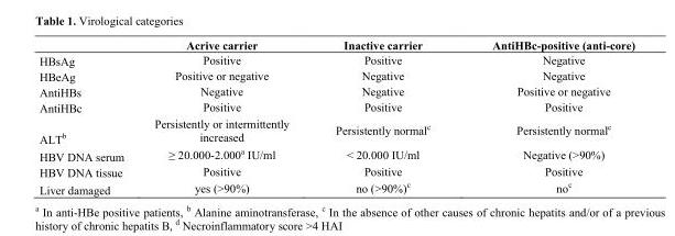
<table><thead><tr><td></td><td>Acrive carrier</td><td>Inactive carrier</td><td>AntiHBc-positive (anti-core)</td></tr></thead><tbody><tr><td>HBsAg</td><td>Positive</td><td>Positive</td><td>Negative</td></tr><tr><td>HBeAg</td><td>Positive or negative</td><td>Negative</td><td>Negative</td></tr><tr><td>AntiHBs</td><td>Negative</td><td>Negative</td><td>Positive or negative</td></tr><tr><td>AntiHBc</td><td>Positive</td><td>Positive</td><td>Positive</td></tr><tr><td>ALT<sup>b</sup></td><td>Persistently or intermittently increased</td><td>Persistently normal<sup>c</sup></td><td>Persistently normal<sup>c</sup></td></tr><tr><td>HBV DNA serum</td><td>≥ 20.000-2.000<sup>a</sup> IU/ml</td><td>&lt; 20.000 IU/ml</td><td>Negative (&gt;90%)</td></tr><tr><td>HBV DNA tissue</td><td>Positive</td><td>Positive</td><td>Positive</td></tr><tr><td>Liver damaged</td><td>yes (&gt;90%)</td><td>no (&gt;90%)<sup>c</sup></td><td>no<sup>c</sup></td></tr></tbody></table>